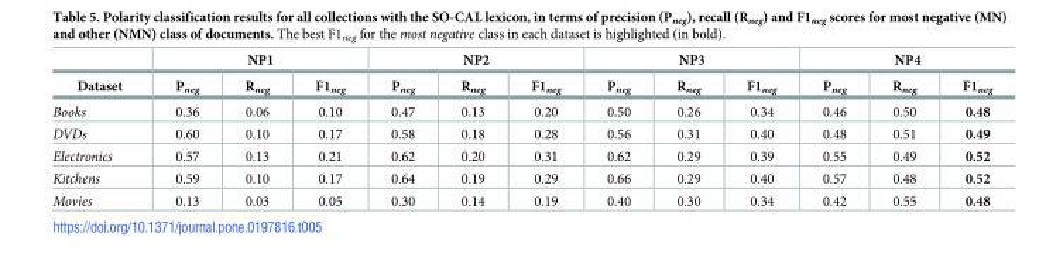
<table><thead><tr><td rowspan="2">Dataset</td><td colspan="3">NP1</td><td colspan="3">NP2</td><td colspan="3">NP3</td><td colspan="3">NP4</td></tr><tr><td>P<sub>neg</sub></td><td>R<sub>neg</sub></td><td>F1<sub>neg</sub></td><td>P<sub>neg</sub></td><td>R<sub>neg</sub></td><td>F1<sub>neg</sub></td><td>P<sub>neg</sub></td><td>R<sub>neg</sub></td><td>F1<sub>neg</sub></td><td>P<sub>neg</sub></td><td>R<sub>neg</sub></td><td>F1<sub>neg</sub></td></tr></thead><tbody><tr><td>Books</td><td>0.36</td><td>0.06</td><td>0.10</td><td>0.47</td><td>0.13</td><td>0.20</td><td>0.50</td><td>0.26</td><td>0.34</td><td>0.46</td><td>0.50</td><td>0.48</td></tr><tr><td>DVDs</td><td>0.60</td><td>0.10</td><td>0.17</td><td>0.58</td><td>0.18</td><td>0.28</td><td>0.56</td><td>0.31</td><td>0.40</td><td>0.48</td><td>0.51</td><td>0.49</td></tr><tr><td>Electronics</td><td>0.57</td><td>0.13</td><td>0.21</td><td>0.62</td><td>0.20</td><td>0.31</td><td>0.62</td><td>0.29</td><td>0.39</td><td>0.55</td><td>0.49</td><td>0.52</td></tr><tr><td>Kitchens</td><td>0.59</td><td>0.10</td><td>0.17</td><td>0.64</td><td>0.19</td><td>0.29</td><td>0.66</td><td>0.29</td><td>0.40</td><td>0.57</td><td>0.48</td><td>0.52</td></tr><tr><td>Movies</td><td>0.13</td><td>0.03</td><td>0.05</td><td>0.30</td><td>0.14</td><td>0.19</td><td>0.40</td><td>0.30</td><td>0.34</td><td>0.42</td><td>0.55</td><td>0.48</td></tr></tbody></table>